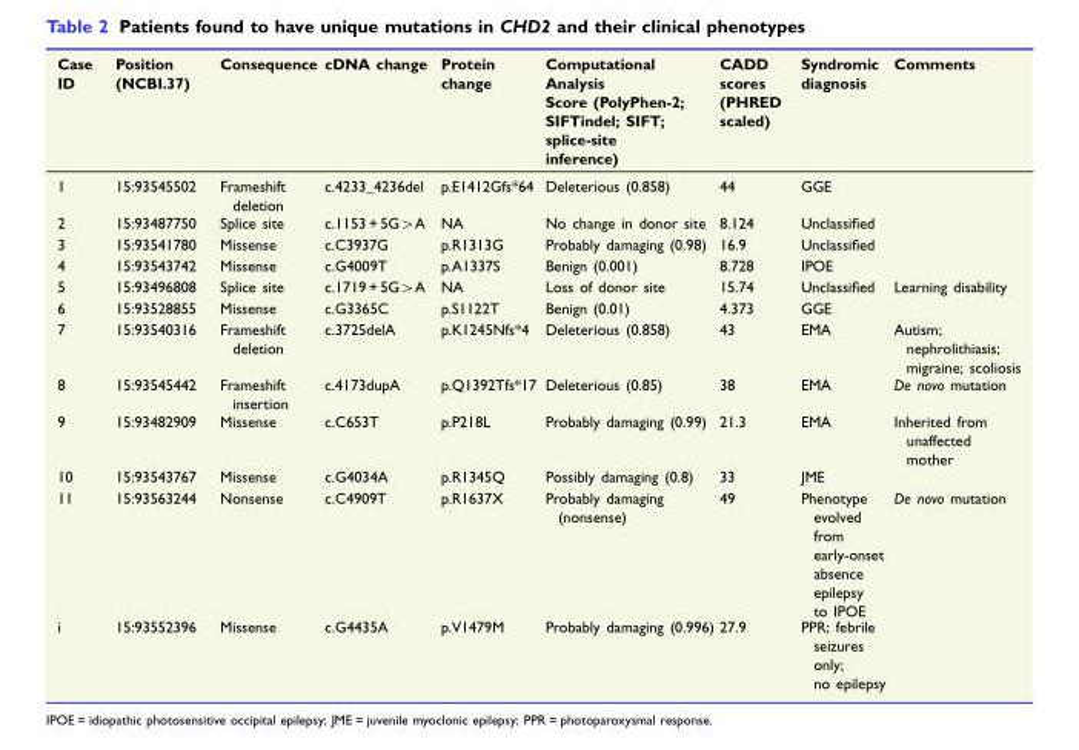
<table><thead><tr><td>Case ID</td><td>Position (NCBI.37)</td><td>Consequence</td><td>cDNA change</td><td>Protein change</td><td>Computational Analysis Score (PolyPhen-2; SIFTindel; SIFT; splice-site inference)</td><td>CADD scores (PHRED scaled)</td><td>Syndromic diagnosis</td><td>Comments</td></tr></thead><tbody><tr><td>1</td><td>15:93545502</td><td>Frameshift deletion</td><td>c.4233_4236del</td><td>p.E1412Gfs*64</td><td>Deleterious (0.858)</td><td>44</td><td>GGE</td><td></td></tr><tr><td>2</td><td>15:93487750</td><td>Splice site</td><td>c.1153 + 5G&gt;A</td><td>NA</td><td>No change in donor site</td><td>8.124</td><td>Unclassified</td><td></td></tr><tr><td>3</td><td>15:93541780</td><td>Missense</td><td>c.C3937G</td><td>p.R1313G</td><td>Probably damaging (0.98)</td><td>16.9</td><td>Unclassified</td><td></td></tr><tr><td>4</td><td>15:93543742</td><td>Missense</td><td>c.G4009T</td><td>p.A1337S</td><td>Benign (0.001)</td><td>8.728</td><td>IPOE</td><td></td></tr><tr><td>5</td><td>15:93496808</td><td>Splice site</td><td>c.1719 + 5G&gt;A</td><td>NA</td><td>Loss of donor site</td><td>15.74</td><td>Unclassified</td><td>Learning disability</td></tr><tr><td>6</td><td>15:93528855</td><td>Missense</td><td>c.G3365C</td><td>p.S1122T</td><td>Benign (0.01)</td><td>4.373</td><td>GGE</td><td></td></tr><tr><td>7</td><td>15:93540316</td><td>Frameshift deletion</td><td>c.3725delA</td><td>p.K1245Nfs*4</td><td>Deleterious (0.858)</td><td>43</td><td>EMA</td><td>Autism; nephrolithiasis; migraine; scoliosis</td></tr><tr><td>8</td><td>15:93545442</td><td>Frameshift insertion</td><td>c.4173dupA</td><td>p.Q1392Tfs*17</td><td>Deleterious (0.85)</td><td>38</td><td>EMA</td><td>De novo mutation</td></tr><tr><td>9</td><td>15:93482909</td><td>Missense</td><td>c.C653T</td><td>p.P218L</td><td>Probably damaging (0.99)</td><td>21.3</td><td>EMA</td><td>Inherited from unaffected mother</td></tr><tr><td>10</td><td>15:93543767</td><td>Missense</td><td>c.G4034A</td><td>p.R1345Q</td><td>Possibly damaging (0.8)</td><td>33</td><td>JME</td><td></td></tr><tr><td>11</td><td>15:93563244</td><td>Nonsense</td><td>c.C4909T</td><td>p.R1637X</td><td>Probably damaging (nonsense)</td><td>49</td><td>Phenotype evolved from early-onset absence epilepsy to IPOE</td><td>De novo mutation</td></tr><tr><td>i</td><td>15:93552396</td><td>Missense</td><td>c.G4435A</td><td>p.V1479M</td><td>Probably damaging (0.996)</td><td>27.9</td><td>PPR; febrile seizures only; no epilepsy</td><td></td></tr></tbody></table>